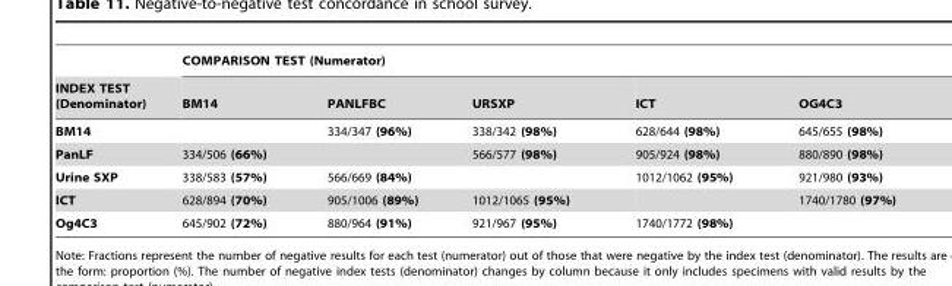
<table><thead><tr><td rowspan="2">INDEX TEST (Denominator)</td><td colspan="5">COMPARISON TEST (Numerator)</td></tr><tr><td>BM14</td><td>PANLFBC</td><td>URSXP</td><td>ICT</td><td>OG4C3</td></tr></thead><tbody><tr><td>BM14</td><td></td><td>334/347 (96%)</td><td>338/342 (98%)</td><td>628/644 (98%)</td><td>645/655 (98%)</td></tr><tr><td>PanLF</td><td>334/506 (66%)</td><td></td><td>566/577 (98%)</td><td>905/924 (98%)</td><td>880/890 (98%)</td></tr><tr><td>Urine SXP</td><td>338/583 (57%)</td><td>566/669 (84%)</td><td></td><td>1012/1062 (95%)</td><td>921/980 (93%)</td></tr><tr><td>ICT</td><td>628/894 (70%)</td><td>905/1006 (89%)</td><td>1012/1065 (95%)</td><td></td><td>1740/1780 (97%)</td></tr><tr><td>Og4C3</td><td>645/902 (72%)</td><td>880/964 (91%)</td><td>921/967 (95%)</td><td>1740/1772 (98%)</td><td></td></tr></tbody></table>